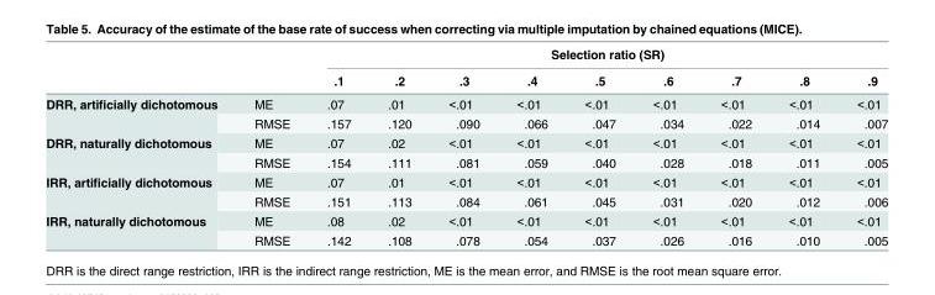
<table><thead><tr><td rowspan="2"></td><td rowspan="2"></td><td colspan="9">Selection ratio (SR)</td></tr><tr><td>.1</td><td>.2</td><td>.3</td><td>.4</td><td>.5</td><td>.6</td><td>.7</td><td>.8</td><td>.9</td></tr></thead><tbody><tr><td rowspan="2">DRR, artificially dichotomous</td><td>ME</td><td>.07</td><td>.01</td><td>&lt;.01</td><td>&lt;.01</td><td>&lt;.01</td><td>&lt;.01</td><td>&lt;.01</td><td>&lt;.01</td><td>&lt;.01</td></tr><tr><td>RMSE</td><td>.157</td><td>.120</td><td>.090</td><td>.066</td><td>.047</td><td>.034</td><td>.022</td><td>.014</td><td>.007</td></tr><tr><td rowspan="2">DRR, naturally dichotomous</td><td>ME</td><td>.07</td><td>.02</td><td>&lt;.01</td><td>&lt;.01</td><td>&lt;.01</td><td>&lt;.01</td><td>&lt;.01</td><td>&lt;.01</td><td>&lt;.01</td></tr><tr><td>RMSE</td><td>.154</td><td>.111</td><td>.081</td><td>.059</td><td>.040</td><td>.028</td><td>.018</td><td>.011</td><td>.005</td></tr><tr><td rowspan="2">IRR, artificially dichotomous</td><td>ME</td><td>.07</td><td>.01</td><td>&lt;.01</td><td>&lt;.01</td><td>&lt;.01</td><td>&lt;.01</td><td>&lt;.01</td><td>&lt;.01</td><td>&lt;.01</td></tr><tr><td>RMSE</td><td>.151</td><td>.113</td><td>.084</td><td>.061</td><td>.045</td><td>.031</td><td>.020</td><td>.012</td><td>.006</td></tr><tr><td rowspan="2">IRR, naturally dichotomous</td><td>ME</td><td>.08</td><td>.02</td><td>&lt;.01</td><td>&lt;.01</td><td>&lt;.01</td><td>&lt;.01</td><td>&lt;.01</td><td>&lt;.01</td><td>&lt;.01</td></tr><tr><td>RMSE</td><td>.142</td><td>.108</td><td>.078</td><td>.054</td><td>.037</td><td>.026</td><td>.016</td><td>.010</td><td>.005</td></tr></tbody></table>